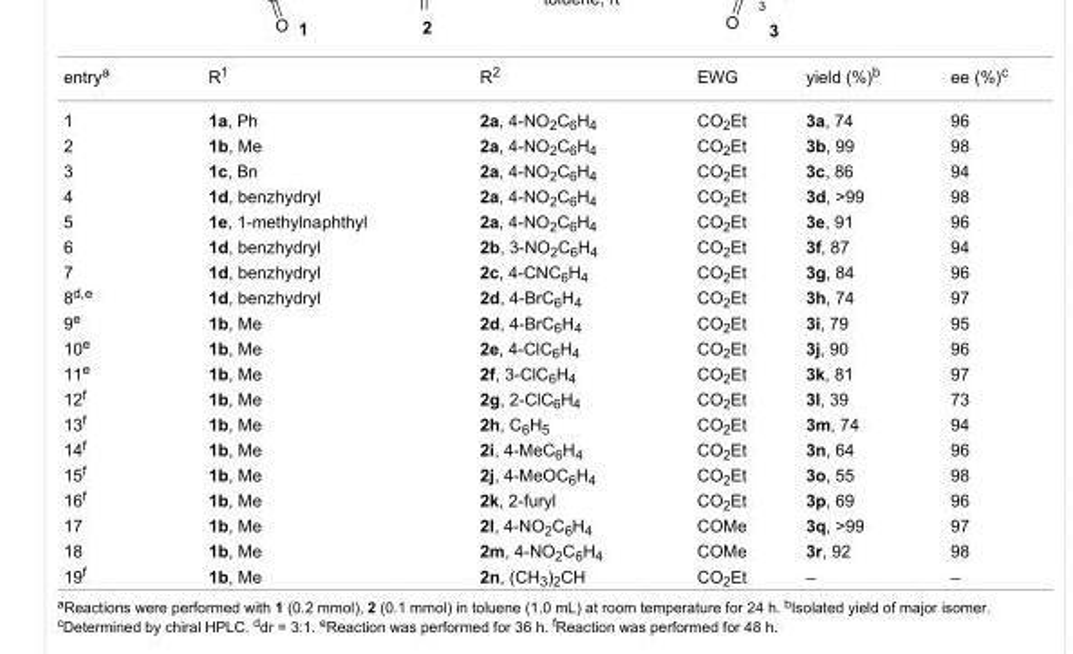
<table><tbody><tr><td>entry<sup>a</sup></td><td>R<sup>1</sup></td><td>R<sup>2</sup></td><td>EWG</td><td>yield (%)<sup>b</sup></td><td>ee (%)<sup>c</sup></td></tr><tr><td>1</td><td>1a, Ph</td><td>2a, 4-NO<sub>2</sub>C<sub>6</sub>H<sub>4</sub></td><td>CO<sub>2</sub>Et</td><td>3a, 74</td><td>96</td></tr><tr><td>2</td><td>1b, Me</td><td>2a, 4-NO<sub>2</sub>C<sub>6</sub>H<sub>4</sub></td><td>CO<sub>2</sub>Et</td><td>3b, 99</td><td>98</td></tr><tr><td>3</td><td>1c, Bn</td><td>2a, 4-NO<sub>2</sub>C<sub>6</sub>H<sub>4</sub></td><td>CO<sub>2</sub>Et</td><td>3c, 86</td><td>94</td></tr><tr><td>4</td><td>1d, benzhydryl</td><td>2a, 4-NO<sub>2</sub>C<sub>6</sub>H<sub>4</sub></td><td>CO<sub>2</sub>Et</td><td>3d, &gt;99</td><td>98</td></tr><tr><td>5</td><td>1e, 1-methylnaphthyl</td><td>2a, 4-NO<sub>2</sub>C<sub>6</sub>H<sub>4</sub></td><td>CO<sub>2</sub>Et</td><td>3e, 91</td><td>96</td></tr><tr><td>6</td><td>1d, benzhydryl</td><td>2b, 3-NO<sub>2</sub>C<sub>6</sub>H<sub>4</sub></td><td>CO<sub>2</sub>Et</td><td>3f, 87</td><td>94</td></tr><tr><td>7</td><td>1d, benzhydryl</td><td>2c, 4-CNC<sub>6</sub>H<sub>4</sub></td><td>CO<sub>2</sub>Et</td><td>3g, 84</td><td>96</td></tr><tr><td>8<sup>d,e</sup></td><td>1d, benzhydryl</td><td>2d, 4-BrC<sub>6</sub>H<sub>4</sub></td><td>CO<sub>2</sub>Et</td><td>3h, 74</td><td>97</td></tr><tr><td>9<sup>e</sup></td><td>1b, Me</td><td>2d, 4-BrC<sub>6</sub>H<sub>4</sub></td><td>CO<sub>2</sub>Et</td><td>3i, 79</td><td>95</td></tr><tr><td>10<sup>e</sup></td><td>1b, Me</td><td>2e, 4-ClC<sub>6</sub>H<sub>4</sub></td><td>CO<sub>2</sub>Et</td><td>3j, 90</td><td>96</td></tr><tr><td>11<sup>e</sup></td><td>1b, Me</td><td>2f, 3-ClC<sub>6</sub>H<sub>4</sub></td><td>CO<sub>2</sub>Et</td><td>3k, 81</td><td>97</td></tr><tr><td>12<sup>f</sup></td><td>1b, Me</td><td>2g, 2-ClC<sub>6</sub>H<sub>4</sub></td><td>CO<sub>2</sub>Et</td><td>3l, 39</td><td>73</td></tr><tr><td>13<sup>f</sup></td><td>1b, Me</td><td>2h, C<sub>6</sub>H<sub>5</sub></td><td>CO<sub>2</sub>Et</td><td>3m, 74</td><td>94</td></tr><tr><td>14<sup>f</sup></td><td>1b, Me</td><td>2i, 4-MeC<sub>6</sub>H<sub>4</sub></td><td>CO<sub>2</sub>Et</td><td>3n, 64</td><td>96</td></tr><tr><td>15<sup>f</sup></td><td>1b, Me</td><td>2j, 4-MeOC<sub>6</sub>H<sub>4</sub></td><td>CO<sub>2</sub>Et</td><td>3o, 55</td><td>98</td></tr><tr><td>16<sup>f</sup></td><td>1b, Me</td><td>2k, 2-furyl</td><td>CO<sub>2</sub>Et</td><td>3p, 69</td><td>96</td></tr><tr><td>17</td><td>1b, Me</td><td>2l, 4-NO<sub>2</sub>C<sub>6</sub>H<sub>4</sub></td><td>COMe</td><td>3q, &gt;99</td><td>97</td></tr><tr><td>18</td><td>1b, Me</td><td>2m, 4-NO<sub>2</sub>C<sub>6</sub>H<sub>4</sub></td><td>COMe</td><td>3r, 92</td><td>98</td></tr><tr><td>19<sup>f</sup></td><td>1b, Me</td><td>2n, (CH<sub>3</sub>)<sub>2</sub>CH</td><td>CO<sub>2</sub>Et</td><td>–</td><td>–</td></tr></tbody></table>